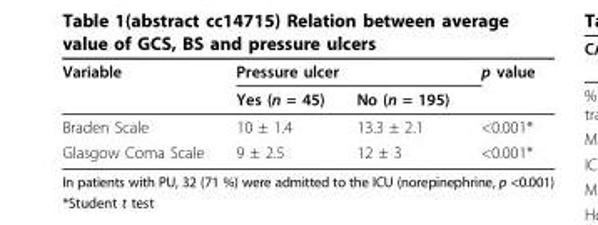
<table><thead><tr><td rowspan="2">Variable</td><td colspan="2">Pressure ulcer</td><td rowspan="2">p value</td></tr><tr><td>Yes (n = 45)</td><td>No (n = 195)</td></tr></thead><tbody><tr><td>Braden Scale</td><td>10 ± 1.4</td><td>13.3 ± 2.1</td><td>&lt;0.001*</td></tr><tr><td>Glasgow Coma Scale</td><td>9 ± 2.5</td><td>12 ± 3</td><td>&lt;0.001*</td></tr></tbody></table>